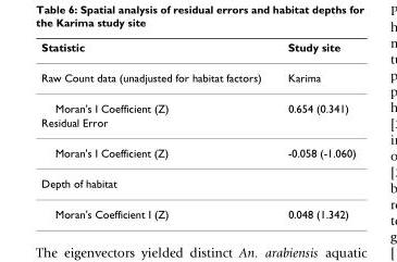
<table><thead><tr><td>Statistic</td><td>Study site</td></tr></thead><tbody><tr><td>Raw Count data (unadjusted for habitat factors)</td><td>Karima</td></tr><tr><td>Moran&#x27;s I Coefficient (Z)</td><td>0.654 (0.341)</td></tr><tr><td colspan="2">Residual Error</td></tr><tr><td>Moran&#x27;s I Coefficient (Z)</td><td>-0.058 (-1.060)</td></tr><tr><td colspan="2">Depth of habitat</td></tr><tr><td>Moran&#x27;s Coefficient I (Z)</td><td>0.048 (1.342)</td></tr></tbody></table>